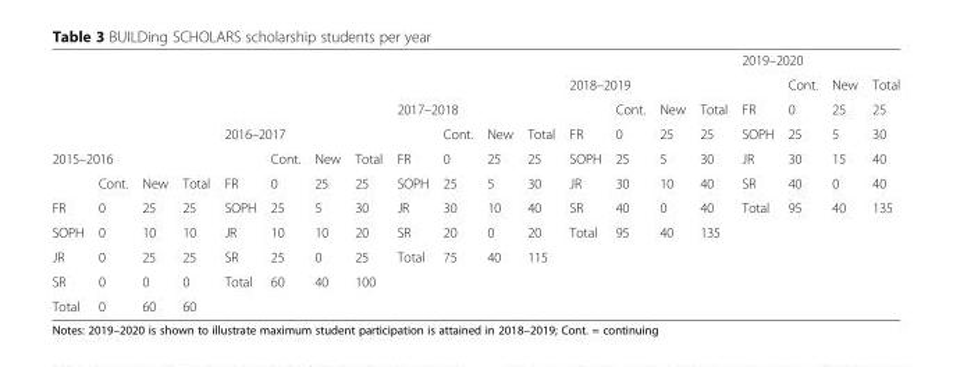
<table><thead><tr><td></td><td></td><td></td><td></td><td></td><td></td><td></td><td></td><td></td><td></td><td></td><td></td><td></td><td></td><td></td><td></td><td colspan="4">2019–2020</td></tr><tr><td colspan="12"></td><td colspan="4">2018–2019</td><td></td><td>Cont.</td><td>New</td><td>Total</td></tr></thead><tbody><tr><td colspan="8"></td><td colspan="4">2017–2018</td><td></td><td>Cont.</td><td>New</td><td>Total</td><td>FR</td><td>0</td><td>25</td><td>25</td></tr><tr><td colspan="4"></td><td colspan="4">2016–2017</td><td></td><td>Cont.</td><td>New</td><td>Total</td><td>FR</td><td>0</td><td>25</td><td>25</td><td>SOPH</td><td>25</td><td>5</td><td>30</td></tr><tr><td colspan="4">2015–2016</td><td></td><td>Cont.</td><td>New</td><td>Total</td><td>FR</td><td>0</td><td>25</td><td>25</td><td>SOPH</td><td>25</td><td>5</td><td>30</td><td>JR</td><td>30</td><td>15</td><td>40</td></tr><tr><td></td><td>Cont.</td><td>New</td><td>Total</td><td>FR</td><td>0</td><td>25</td><td>25</td><td>SOPH</td><td>25</td><td>5</td><td>30</td><td>JR</td><td>30</td><td>10</td><td>40</td><td>SR</td><td>40</td><td>0</td><td>40</td></tr><tr><td>FR</td><td>0</td><td>25</td><td>25</td><td>SOPH</td><td>25</td><td>5</td><td>30</td><td>JR</td><td>30</td><td>10</td><td>40</td><td>SR</td><td>40</td><td>0</td><td>40</td><td>Total</td><td>95</td><td>40</td><td>135</td></tr><tr><td>SOPH</td><td>0</td><td>10</td><td>10</td><td>JR</td><td>10</td><td>10</td><td>20</td><td>SR</td><td>20</td><td>0</td><td>20</td><td>Total</td><td>95</td><td>40</td><td>135</td><td colspan="4"></td></tr><tr><td>JR</td><td>0</td><td>25</td><td>25</td><td>SR</td><td>25</td><td>0</td><td>25</td><td>Total</td><td>75</td><td>40</td><td>115</td><td colspan="8"></td></tr><tr><td>SR</td><td>0</td><td>0</td><td>0</td><td>Total</td><td>60</td><td>40</td><td>100</td><td colspan="12"></td></tr><tr><td>Total</td><td>0</td><td>60</td><td>60</td><td colspan="16"></td></tr></tbody></table>